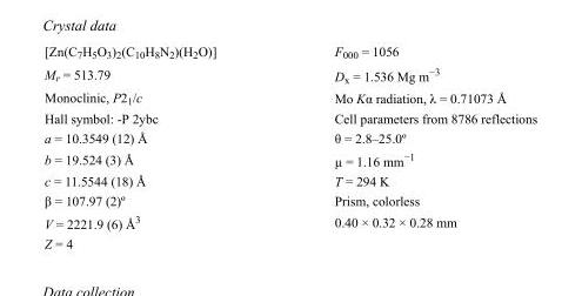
<table><tbody><tr><td>[Zn(C<sub>7</sub>H<sub>5</sub>O<sub>3</sub>)<sub>2</sub>(C<sub>10</sub>H<sub>8</sub>N<sub>2</sub>)(H<sub>2</sub>O)]</td><td>F000 = 1056</td></tr><tr><td>M<sub>r</sub> = 513.79</td><td>D<sub>x</sub> = 1.536 Mg m<sup>−3</sup></td></tr><tr><td>Monoclinic, P2<sub>1</sub>/c</td><td>Mo Kα radiation, λ = 0.71073 Å</td></tr><tr><td>Hall symbol: -P 2ybc</td><td>Cell parameters from 8786 reflections</td></tr><tr><td>a = 10.3549 (12) Å</td><td>θ = 2.8–25.0º</td></tr><tr><td>b = 19.524 (3) Å</td><td>µ = 1.16 mm<sup>−1</sup></td></tr><tr><td>c = 11.5544 (18) Å</td><td>T = 294 K</td></tr><tr><td>β = 107.97 (2)º</td><td>Prism, colorless</td></tr><tr><td>V = 2221.9 (6) Å<sup>3</sup></td><td>0.40 × 0.32 × 0.28 mm</td></tr><tr><td>Z = 4</td><td></td></tr></tbody></table>